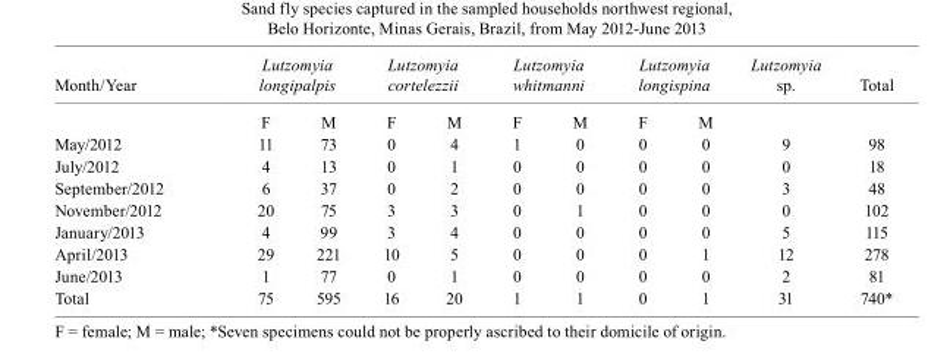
<table><thead><tr><td rowspan="2">Month/Year</td><td colspan="2">Lutzomyia longipalpis</td><td colspan="2">Lutzomyia cortelezzii</td><td colspan="2">Lutzomyia whitmanni</td><td colspan="2">Lutzomyia longispina</td><td rowspan="2">Lutzomyia sp.</td><td rowspan="2">Total</td></tr><tr><td>F</td><td>M</td><td>F</td><td>M</td><td>F</td><td>M</td><td>F</td><td>M</td></tr></thead><tbody><tr><td>May/2012</td><td>11</td><td>73</td><td>0</td><td>4</td><td>1</td><td>0</td><td>0</td><td>0</td><td>9</td><td>98</td></tr><tr><td>July/2012</td><td>4</td><td>13</td><td>0</td><td>1</td><td>0</td><td>0</td><td>0</td><td>0</td><td>0</td><td>18</td></tr><tr><td>September/2012</td><td>6</td><td>37</td><td>0</td><td>2</td><td>0</td><td>0</td><td>0</td><td>0</td><td>3</td><td>48</td></tr><tr><td>November/2012</td><td>20</td><td>75</td><td>3</td><td>3</td><td>0</td><td>1</td><td>0</td><td>0</td><td>0</td><td>102</td></tr><tr><td>January/2013</td><td>4</td><td>99</td><td>3</td><td>4</td><td>0</td><td>0</td><td>0</td><td>0</td><td>5</td><td>115</td></tr><tr><td>April/2013</td><td>29</td><td>221</td><td>10</td><td>5</td><td>0</td><td>0</td><td>0</td><td>1</td><td>12</td><td>278</td></tr><tr><td>June/2013</td><td>1</td><td>77</td><td>0</td><td>1</td><td>0</td><td>0</td><td>0</td><td>0</td><td>2</td><td>81</td></tr><tr><td>Total</td><td>75</td><td>595</td><td>16</td><td>20</td><td>1</td><td>1</td><td>0</td><td>1</td><td>31</td><td>740*</td></tr></tbody></table>